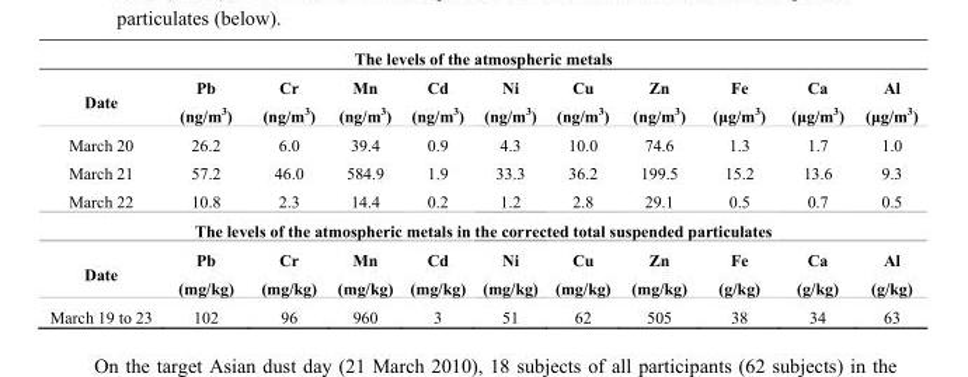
<table><tbody><tr><td colspan="11">The levels of the atmospheric metals</td></tr><tr><td>Date</td><td>Pb (ng/m<sup>3</sup>)</td><td>Cr (ng/m<sup>3</sup>)</td><td>Mn (ng/m<sup>3</sup>)</td><td>Cd (ng/m<sup>3</sup>)</td><td>Ni (ng/m<sup>3</sup>)</td><td>Cu (ng/m<sup>3</sup>)</td><td>Zn (ng/m<sup>3</sup>)</td><td>Fe (μg/m<sup>3</sup>)</td><td>Ca (μg/m<sup>3</sup>)</td><td>Al (μg/m<sup>3</sup>)</td></tr><tr><td>March 20</td><td>26.2</td><td>6.0</td><td>39.4</td><td>0.9</td><td>4.3</td><td>10.0</td><td>74.6</td><td>1.3</td><td>1.7</td><td>1.0</td></tr><tr><td>March 21</td><td>57.2</td><td>46.0</td><td>584.9</td><td>1.9</td><td>33.3</td><td>36.2</td><td>199.5</td><td>15.2</td><td>13.6</td><td>9.3</td></tr><tr><td>March 22</td><td>10.8</td><td>2.3</td><td>14.4</td><td>0.2</td><td>1.2</td><td>2.8</td><td>29.1</td><td>0.5</td><td>0.7</td><td>0.5</td></tr><tr><td colspan="11">The levels of the atmospheric metals in the corrected total suspended particulates</td></tr><tr><td>Date</td><td>Pb (mg/kg)</td><td>Cr (mg/kg)</td><td>Mn (mg/kg)</td><td>Cd (mg/kg)</td><td>Ni (mg/kg)</td><td>Cu (mg/kg)</td><td>Zn (mg/kg)</td><td>Fe (g/kg)</td><td>Ca (g/kg)</td><td>Al (g/kg)</td></tr><tr><td>March 19 to 23</td><td>102</td><td>96</td><td>960</td><td>3</td><td>51</td><td>62</td><td>505</td><td>38</td><td>34</td><td>63</td></tr></tbody></table>